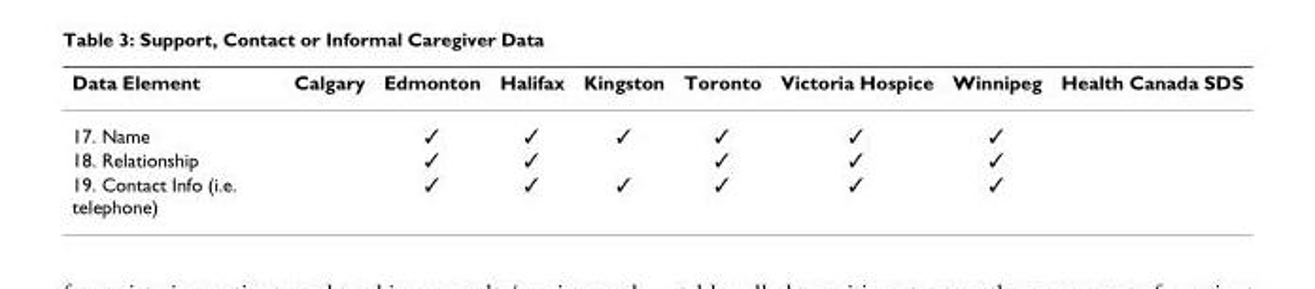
<table><thead><tr><td>Data Element</td><td>Calgary</td><td>Edmonton</td><td>Halifax</td><td>Kingston</td><td>Toronto</td><td>Victoria Hospice</td><td>Winnipeg</td><td>Health Canada SDS</td></tr></thead><tbody><tr><td>17. Name</td><td></td><td>✓</td><td>✓</td><td>✓</td><td>✓</td><td>✓</td><td>✓</td><td></td></tr><tr><td>18. Relationship</td><td></td><td>✓</td><td>✓</td><td></td><td>✓</td><td>✓</td><td>✓</td><td></td></tr><tr><td>19. Contact Info (i.e. telephone)</td><td></td><td>✓</td><td>✓</td><td>✓</td><td>✓</td><td>✓</td><td>✓</td><td></td></tr></tbody></table>